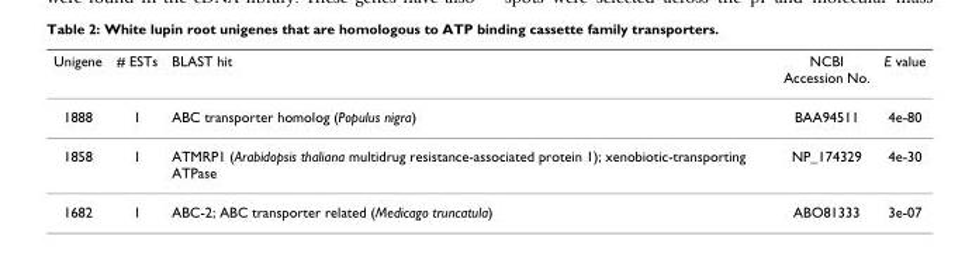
<table><thead><tr><td>Unigene</td><td># ESTs</td><td>BLAST hit</td><td>NCBI Accession No.</td><td>E value</td></tr></thead><tbody><tr><td>1888</td><td>1</td><td>ABC transporter homolog (Populus nigra)</td><td>BAA94511</td><td>4e-80</td></tr><tr><td>1858</td><td>1</td><td>ATMRP1 (Arabidopsis thaliana multidrug resistance-associated protein 1); xenobiotic-transporting ATPase</td><td>NP_174329</td><td>4e-30</td></tr><tr><td>1682</td><td>1</td><td>ABC-2; ABC transporter related (Medicago truncatula)</td><td>ABO81333</td><td>3e-07</td></tr></tbody></table>